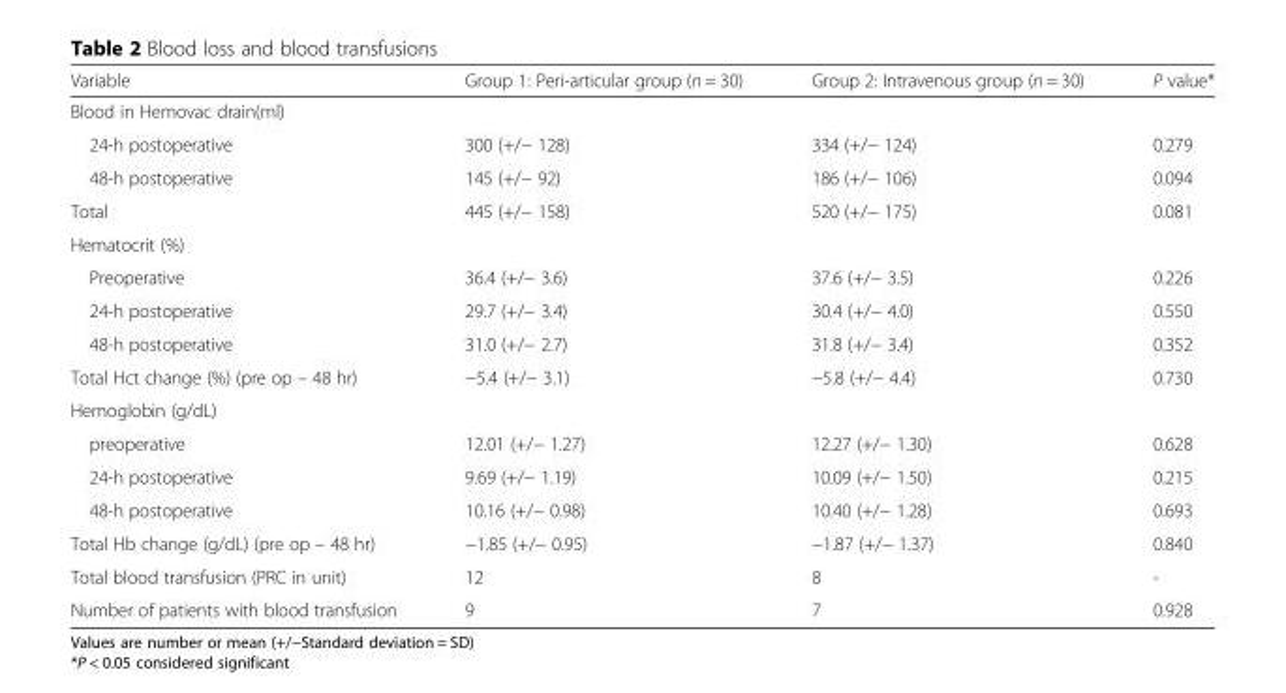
<table><thead><tr><td>Variable</td><td>Group 1: Peri-articular group (n = 30)</td><td>Group 2: Intravenous group (n = 30)</td><td>P value*</td></tr></thead><tbody><tr><td colspan="4">Blood in Hemovac drain(ml)</td></tr><tr><td>24-h postoperative</td><td>300 (+/− 128)</td><td>334 (+/− 124)</td><td>0.279</td></tr><tr><td>48-h postoperative</td><td>145 (+/− 92)</td><td>186 (+/− 106)</td><td>0.094</td></tr><tr><td>Total</td><td>445 (+/− 158)</td><td>520 (+/− 175)</td><td>0.081</td></tr><tr><td colspan="4">Hematocrit (%)</td></tr><tr><td>Preoperative</td><td>36.4 (+/− 3.6)</td><td>37.6 (+/− 3.5)</td><td>0.226</td></tr><tr><td>24-h postoperative</td><td>29.7 (+/− 3.4)</td><td>30.4 (+/− 4.0)</td><td>0.550</td></tr><tr><td>48-h postoperative</td><td>31.0 (+/− 2.7)</td><td>31.8 (+/− 3.4)</td><td>0.352</td></tr><tr><td>Total Hct change (%) (pre op – 48 hr)</td><td>−5.4 (+/− 3.1)</td><td>−5.8 (+/− 4.4)</td><td>0.730</td></tr><tr><td colspan="4">Hemoglobin (g/dL)</td></tr><tr><td>preoperative</td><td>12.01 (+/− 1.27)</td><td>12.27 (+/− 1.30)</td><td>0.628</td></tr><tr><td>24-h postoperative</td><td>9.69 (+/− 1.19)</td><td>10.09 (+/− 1.50)</td><td>0.215</td></tr><tr><td>48-h postoperative</td><td>10.16 (+/− 0.98)</td><td>10.40 (+/− 1.28)</td><td>0.693</td></tr><tr><td>Total Hb change (g/dL) (pre op – 48 hr)</td><td>−1.85 (+/− 0.95)</td><td>−1.87 (+/− 1.37)</td><td>0.840</td></tr><tr><td>Total blood transfusion (PRC in unit)</td><td>12</td><td>8</td><td>-</td></tr><tr><td>Number of patients with blood transfusion</td><td>9</td><td>7</td><td>0.928</td></tr></tbody></table>